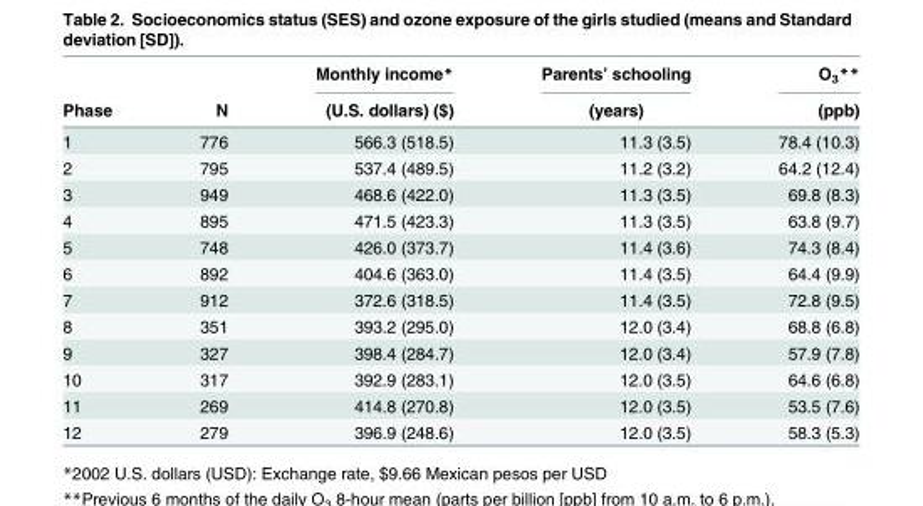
<table><thead><tr><td rowspan="2">Phase</td><td rowspan="2">N</td><td rowspan="2">Monthly income* (U.S. dollars) ($)</td><td rowspan="2">Parents’ schooling (years)</td><td rowspan="2">O<sub>3</sub>** (ppb)</td></tr><tr></tr></thead><tbody><tr><td>1</td><td>776</td><td>566.3 (518.5)</td><td>11.3 (3.5)</td><td>78.4 (10.3)</td></tr><tr><td>2</td><td>795</td><td>537.4 (489.5)</td><td>11.2 (3.2)</td><td>64.2 (12.4)</td></tr><tr><td>3</td><td>949</td><td>468.6 (422.0)</td><td>11.3 (3.5)</td><td>69.8 (8.3)</td></tr><tr><td>4</td><td>895</td><td>471.5 (423.3)</td><td>11.3 (3.5)</td><td>63.8 (9.7)</td></tr><tr><td>5</td><td>748</td><td>426.0 (373.7)</td><td>11.4 (3.6)</td><td>74.3 (8.4)</td></tr><tr><td>6</td><td>892</td><td>404.6 (363.0)</td><td>11.4 (3.5)</td><td>64.4 (9.9)</td></tr><tr><td>7</td><td>912</td><td>372.6 (318.5)</td><td>11.4 (3.5)</td><td>72.8 (9.5)</td></tr><tr><td>8</td><td>351</td><td>393.2 (295.0)</td><td>12.0 (3.4)</td><td>68.8 (6.8)</td></tr><tr><td>9</td><td>327</td><td>398.4 (284.7)</td><td>12.0 (3.4)</td><td>57.9 (7.8)</td></tr><tr><td>10</td><td>317</td><td>392.9 (283.1)</td><td>12.0 (3.5)</td><td>64.6 (6.8)</td></tr><tr><td>11</td><td>269</td><td>414.8 (270.8)</td><td>12.0 (3.5)</td><td>53.5 (7.6)</td></tr><tr><td>12</td><td>279</td><td>396.9 (248.6)</td><td>12.0 (3.5)</td><td>58.3 (5.3)</td></tr></tbody></table>